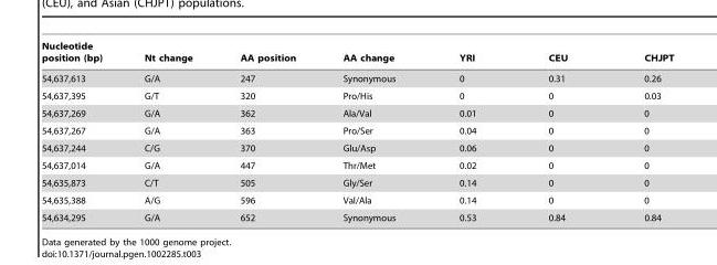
<table><thead><tr><td>Nucleotide position (bp)</td><td>Nt change</td><td>AA position</td><td>AA change</td><td>YRI</td><td>CEU</td><td>CHJPT</td></tr></thead><tbody><tr><td>54,637,613</td><td>G/A</td><td>247</td><td>Synonymous</td><td>0</td><td>0.31</td><td>0.26</td></tr><tr><td>54,637,395</td><td>G/T</td><td>320</td><td>Pro/His</td><td>0</td><td>0</td><td>0.03</td></tr><tr><td>54,637,269</td><td>G/A</td><td>362</td><td>Ala/Val</td><td>0.01</td><td>0</td><td>0</td></tr><tr><td>54,637,267</td><td>G/A</td><td>363</td><td>Pro/Ser</td><td>0.04</td><td>0</td><td>0</td></tr><tr><td>54,637,244</td><td>C/G</td><td>370</td><td>Glu/Asp</td><td>0.06</td><td>0</td><td>0</td></tr><tr><td>54,637,014</td><td>G/A</td><td>447</td><td>Thr/Met</td><td>0.02</td><td>0</td><td>0</td></tr><tr><td>54,635,873</td><td>C/T</td><td>505</td><td>Gly/Ser</td><td>0.14</td><td>0</td><td>0</td></tr><tr><td>54,635,388</td><td>A/G</td><td>596</td><td>Val/Ala</td><td>0.14</td><td>0</td><td>0</td></tr><tr><td>54,634,295</td><td>G/A</td><td>652</td><td>Synonymous</td><td>0.53</td><td>0.84</td><td>0.84</td></tr></tbody></table>